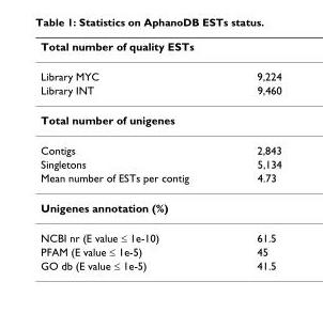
<table><thead><tr><td>Total number of quality ESTs</td><td></td></tr></thead><tbody><tr><td>Library MYC</td><td>9,224</td></tr><tr><td>Library INT</td><td>9,460</td></tr><tr><td colspan="2">Total number of unigenes</td></tr><tr><td>Contigs</td><td>2,843</td></tr><tr><td>Singletons</td><td>5,134</td></tr><tr><td>Mean number of ESTs per contig</td><td>4.73</td></tr><tr><td colspan="2">Unigenes annotation (%)</td></tr><tr><td>NCBI nr (E value ≤ 1e-10)</td><td>61.5</td></tr><tr><td>PFAM (E value ≤ 1e-5)</td><td>45</td></tr><tr><td>GO db (E value ≤ 1e-5)</td><td>41.5</td></tr></tbody></table>